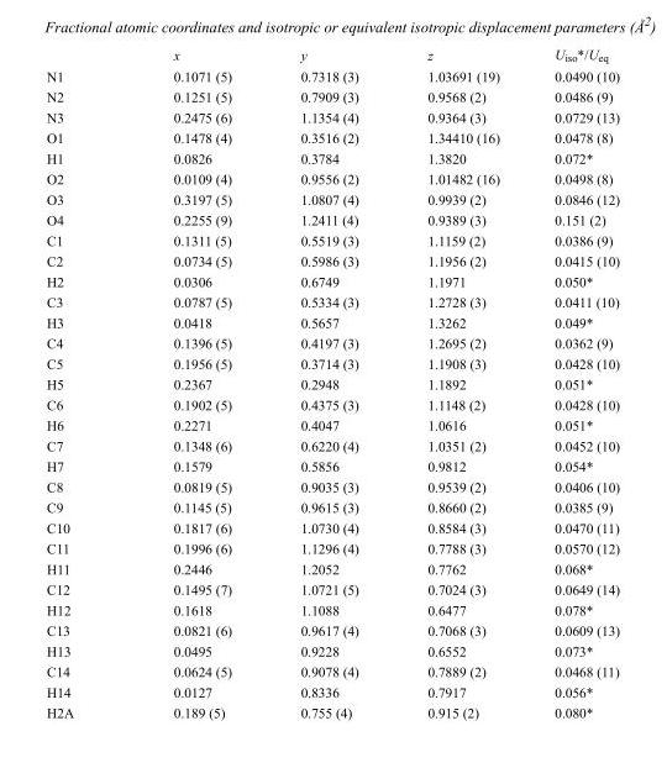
<table><thead><tr><td></td><td>x</td><td>y</td><td>z</td><td>U<sub>iso</sub>*/U<sub>eq</sub></td></tr></thead><tbody><tr><td>N1</td><td>0.1071 (5)</td><td>0.7318 (3)</td><td>1.03691 (19)</td><td>0.0490 (10)</td></tr><tr><td>N2</td><td>0.1251 (5)</td><td>0.7909 (3)</td><td>0.9568 (2)</td><td>0.0486 (9)</td></tr><tr><td>N3</td><td>0.2475 (6)</td><td>1.1354 (4)</td><td>0.9364 (3)</td><td>0.0729 (13)</td></tr><tr><td>O1</td><td>0.1478 (4)</td><td>0.3516 (2)</td><td>1.34410 (16)</td><td>0.0478 (8)</td></tr><tr><td>H1</td><td>0.0826</td><td>0.3784</td><td>1.3820</td><td>0.072*</td></tr><tr><td>O2</td><td>0.0109 (4)</td><td>0.9556 (2)</td><td>1.01482 (16)</td><td>0.0498 (8)</td></tr><tr><td>O3</td><td>0.3197 (5)</td><td>1.0807 (4)</td><td>0.9939 (2)</td><td>0.0846 (12)</td></tr><tr><td>O4</td><td>0.2255 (9)</td><td>1.2411 (4)</td><td>0.9389 (3)</td><td>0.151 (2)</td></tr><tr><td>C1</td><td>0.1311 (5)</td><td>0.5519 (3)</td><td>1.1159 (2)</td><td>0.0386 (9)</td></tr><tr><td>C2</td><td>0.0734 (5)</td><td>0.5986 (3)</td><td>1.1956 (2)</td><td>0.0415 (10)</td></tr><tr><td>H2</td><td>0.0306</td><td>0.6749</td><td>1.1971</td><td>0.050*</td></tr><tr><td>C3</td><td>0.0787 (5)</td><td>0.5334 (3)</td><td>1.2728 (3)</td><td>0.0411 (10)</td></tr><tr><td>H3</td><td>0.0418</td><td>0.5657</td><td>1.3262</td><td>0.049*</td></tr><tr><td>C4</td><td>0.1396 (5)</td><td>0.4197 (3)</td><td>1.2695 (2)</td><td>0.0362 (9)</td></tr><tr><td>C5</td><td>0.1956 (5)</td><td>0.3714 (3)</td><td>1.1908 (3)</td><td>0.0428 (10)</td></tr><tr><td>H5</td><td>0.2367</td><td>0.2948</td><td>1.1892</td><td>0.051*</td></tr><tr><td>C6</td><td>0.1902 (5)</td><td>0.4375 (3)</td><td>1.1148 (2)</td><td>0.0428 (10)</td></tr><tr><td>H6</td><td>0.2271</td><td>0.4047</td><td>1.0616</td><td>0.051*</td></tr><tr><td>C7</td><td>0.1348 (6)</td><td>0.6220 (4)</td><td>1.0351 (2)</td><td>0.0452 (10)</td></tr><tr><td>H7</td><td>0.1579</td><td>0.5856</td><td>0.9812</td><td>0.054*</td></tr><tr><td>C8</td><td>0.0819 (5)</td><td>0.9035 (3)</td><td>0.9539 (2)</td><td>0.0406 (10)</td></tr><tr><td>C9</td><td>0.1145 (5)</td><td>0.9615 (3)</td><td>0.8660 (2)</td><td>0.0385 (9)</td></tr><tr><td>C10</td><td>0.1817 (6)</td><td>1.0730 (4)</td><td>0.8584 (3)</td><td>0.0470 (11)</td></tr><tr><td>C11</td><td>0.1996 (6)</td><td>1.1296 (4)</td><td>0.7788 (3)</td><td>0.0570 (12)</td></tr><tr><td>H11</td><td>0.2446</td><td>1.2052</td><td>0.7762</td><td>0.068*</td></tr><tr><td>C12</td><td>0.1495 (7)</td><td>1.0721 (5)</td><td>0.7024 (3)</td><td>0.0649 (14)</td></tr><tr><td>H12</td><td>0.1618</td><td>1.1088</td><td>0.6477</td><td>0.078*</td></tr><tr><td>C13</td><td>0.0821 (6)</td><td>0.9617 (4)</td><td>0.7068 (3)</td><td>0.0609 (13)</td></tr><tr><td>H13</td><td>0.0495</td><td>0.9228</td><td>0.6552</td><td>0.073*</td></tr><tr><td>C14</td><td>0.0624 (5)</td><td>0.9078 (4)</td><td>0.7889 (2)</td><td>0.0468 (11)</td></tr><tr><td>H14</td><td>0.0127</td><td>0.8336</td><td>0.7917</td><td>0.056*</td></tr><tr><td>H2A</td><td>0.189 (5)</td><td>0.755 (4)</td><td>0.915 (2)</td><td>0.080*</td></tr></tbody></table>